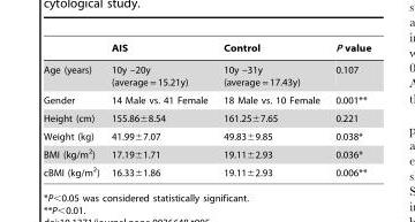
<table><thead><tr><td></td><td>AIS</td><td>Control</td><td>P value</td></tr></thead><tbody><tr><td>Age (years)</td><td>10y –20y (average = 15.21y)</td><td>10y –31y (average = 17.43y)</td><td>0.107</td></tr><tr><td>Gender</td><td>14 Male vs. 41 Female</td><td>18 Male vs. 10 Female</td><td>0.001**</td></tr><tr><td>Height (cm)</td><td>155.86±8.54</td><td>161.25±7.65</td><td>0.221</td></tr><tr><td>Weight (kg)</td><td>41.99±7.07</td><td>49.83±9.85</td><td>0.038*</td></tr><tr><td>BMI (kg/m<sup>2</sup>)</td><td>17.19±1.71</td><td>19.11±2.93</td><td>0.036*</td></tr><tr><td>cBMI (kg/m<sup>2</sup>)</td><td>16.33±1.86</td><td>19.11±2.93</td><td>0.006**</td></tr></tbody></table>